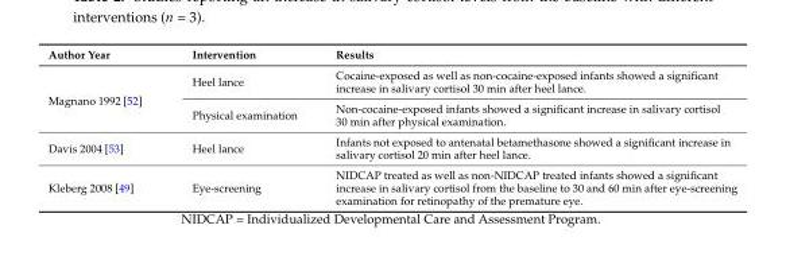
<table><thead><tr><td>Author Year</td><td>Intervention</td><td>Results</td></tr></thead><tbody><tr><td rowspan="2">Magnano 1992 [52]</td><td>Heel lance</td><td>Cocaine-exposed as well as non-cocaine-exposed infants showed a significant increase in salivary cortisol 30 min after heel lance.</td></tr><tr><td>Physical examination</td><td>Non-cocaine-exposed infants showed a significant increase in salivary cortisol 30 min after physical examination.</td></tr><tr><td>Davis 2004 [53]</td><td>Heel lance</td><td>Infants not exposed to antenatal betamethasone showed a significant increase in salivary cortisol 20 min after heel lance.</td></tr><tr><td>Kleberg 2008 [49]</td><td>Eye-screening</td><td>NIDCAP treated as well as non-NIDCAP treated infants showed a significant increase in salivary cortisol from the baseline to 30 and 60 min after eye-screening examination for retinopathy of the premature eye.</td></tr></tbody></table>